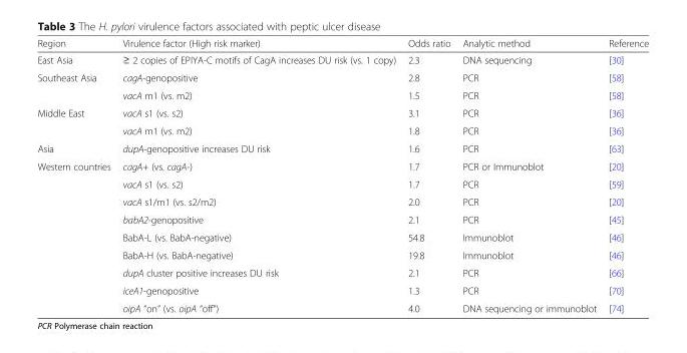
<table><thead><tr><td>Region</td><td>Virulence factor (High risk marker)</td><td>Odds ratio</td><td>Analytic method</td><td>Reference</td></tr></thead><tbody><tr><td>East Asia</td><td>≥ 2 copies of EPIYA-C motifs of CagA increases DU risk (vs. 1 copy)</td><td>2.3</td><td>DNA sequencing</td><td>[30]</td></tr><tr><td rowspan="2">Southeast Asia</td><td>cagA-genopositive</td><td>2.8</td><td>PCR</td><td>[58]</td></tr><tr><td>vacA m1 (vs. m2)</td><td>1.5</td><td>PCR</td><td>[58]</td></tr><tr><td rowspan="2">Middle East</td><td>vacA s1 (vs. s2)</td><td>3.1</td><td>PCR</td><td>[36]</td></tr><tr><td>vacA m1 (vs. m2)</td><td>1.8</td><td>PCR</td><td>[36]</td></tr><tr><td>Asia</td><td>dupA-genopositive increases DU risk</td><td>1.6</td><td>PCR</td><td>[63]</td></tr><tr><td rowspan="9">Western countries</td><td>cagA+ (vs. cagA-)</td><td>1.7</td><td>PCR or Immunoblot</td><td>[20]</td></tr><tr><td>vacA s1 (vs. s2)</td><td>1.7</td><td>PCR</td><td>[59]</td></tr><tr><td>vacA s1/m1 (vs. s2/m2)</td><td>2.0</td><td>PCR</td><td>[20]</td></tr><tr><td>babA2-genopositive</td><td>2.1</td><td>PCR</td><td>[45]</td></tr><tr><td>BabA-L (vs. BabA-negative)</td><td>54.8</td><td>Immunoblot</td><td>[46]</td></tr><tr><td>BabA-H (vs. BabA-negative)</td><td>19.8</td><td>Immunoblot</td><td>[46]</td></tr><tr><td>dupA cluster positive increases DU risk</td><td>2.1</td><td>PCR</td><td>[66]</td></tr><tr><td>iceA1-genopositive</td><td>1.3</td><td>PCR</td><td>[70]</td></tr><tr><td>oipA “on” (vs. oipA “off”)</td><td>4.0</td><td>DNA sequencing or immunoblot</td><td>[74]</td></tr></tbody></table>